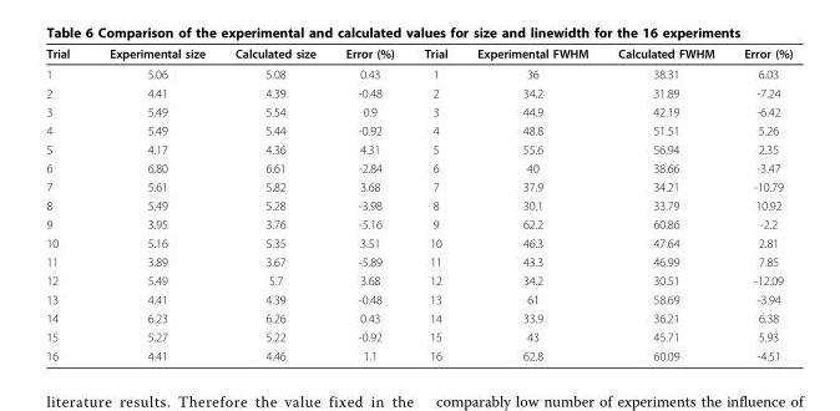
<table><thead><tr><td>Trial</td><td>Experimental size</td><td>Calculated size</td><td>Error (%)</td><td>Trial</td><td>Experimental FWHM</td><td>Calculated FWHM</td><td>Error (%)</td></tr></thead><tbody><tr><td>1</td><td>5.06</td><td>5.08</td><td>0.43</td><td>1</td><td>36</td><td>38.31</td><td>6.03</td></tr><tr><td>2</td><td>4.41</td><td>4.39</td><td>-0.48</td><td>2</td><td>34.2</td><td>31.89</td><td>-7.24</td></tr><tr><td>3</td><td>5.49</td><td>5.54</td><td>0.9</td><td>3</td><td>44.9</td><td>42.19</td><td>-6.42</td></tr><tr><td>4</td><td>5.49</td><td>5.44</td><td>-0.92</td><td>4</td><td>48.8</td><td>51.51</td><td>5.26</td></tr><tr><td>5</td><td>4.17</td><td>4.36</td><td>4.31</td><td>5</td><td>55.6</td><td>56.94</td><td>2.35</td></tr><tr><td>6</td><td>6.80</td><td>6.61</td><td>-2.84</td><td>6</td><td>40</td><td>38.66</td><td>-3.47</td></tr><tr><td>7</td><td>5.61</td><td>5.82</td><td>3.68</td><td>7</td><td>37.9</td><td>34.21</td><td>-10.79</td></tr><tr><td>8</td><td>5.49</td><td>5.28</td><td>-3.98</td><td>8</td><td>30.1</td><td>33.79</td><td>10.92</td></tr><tr><td>9</td><td>3.95</td><td>3.76</td><td>-5.16</td><td>9</td><td>62.2</td><td>60.86</td><td>-2.2</td></tr><tr><td>10</td><td>5.16</td><td>5.35</td><td>3.51</td><td>10</td><td>46.3</td><td>47.64</td><td>2.81</td></tr><tr><td>11</td><td>3.89</td><td>3.67</td><td>-5.89</td><td>11</td><td>43.3</td><td>46.99</td><td>7.85</td></tr><tr><td>12</td><td>5.49</td><td>5.7</td><td>3.68</td><td>12</td><td>34.2</td><td>30.51</td><td>-12.09</td></tr><tr><td>13</td><td>4.41</td><td>4.39</td><td>-0.48</td><td>13</td><td>61</td><td>58.69</td><td>-3.94</td></tr><tr><td>14</td><td>6.23</td><td>6.26</td><td>0.43</td><td>14</td><td>33.9</td><td>36.21</td><td>6.38</td></tr><tr><td>15</td><td>5.27</td><td>5.22</td><td>-0.92</td><td>15</td><td>43</td><td>45.71</td><td>5.93</td></tr><tr><td>16</td><td>4.41</td><td>4.46</td><td>1.1</td><td>16</td><td>62.8</td><td>60.09</td><td>-4.51</td></tr></tbody></table>